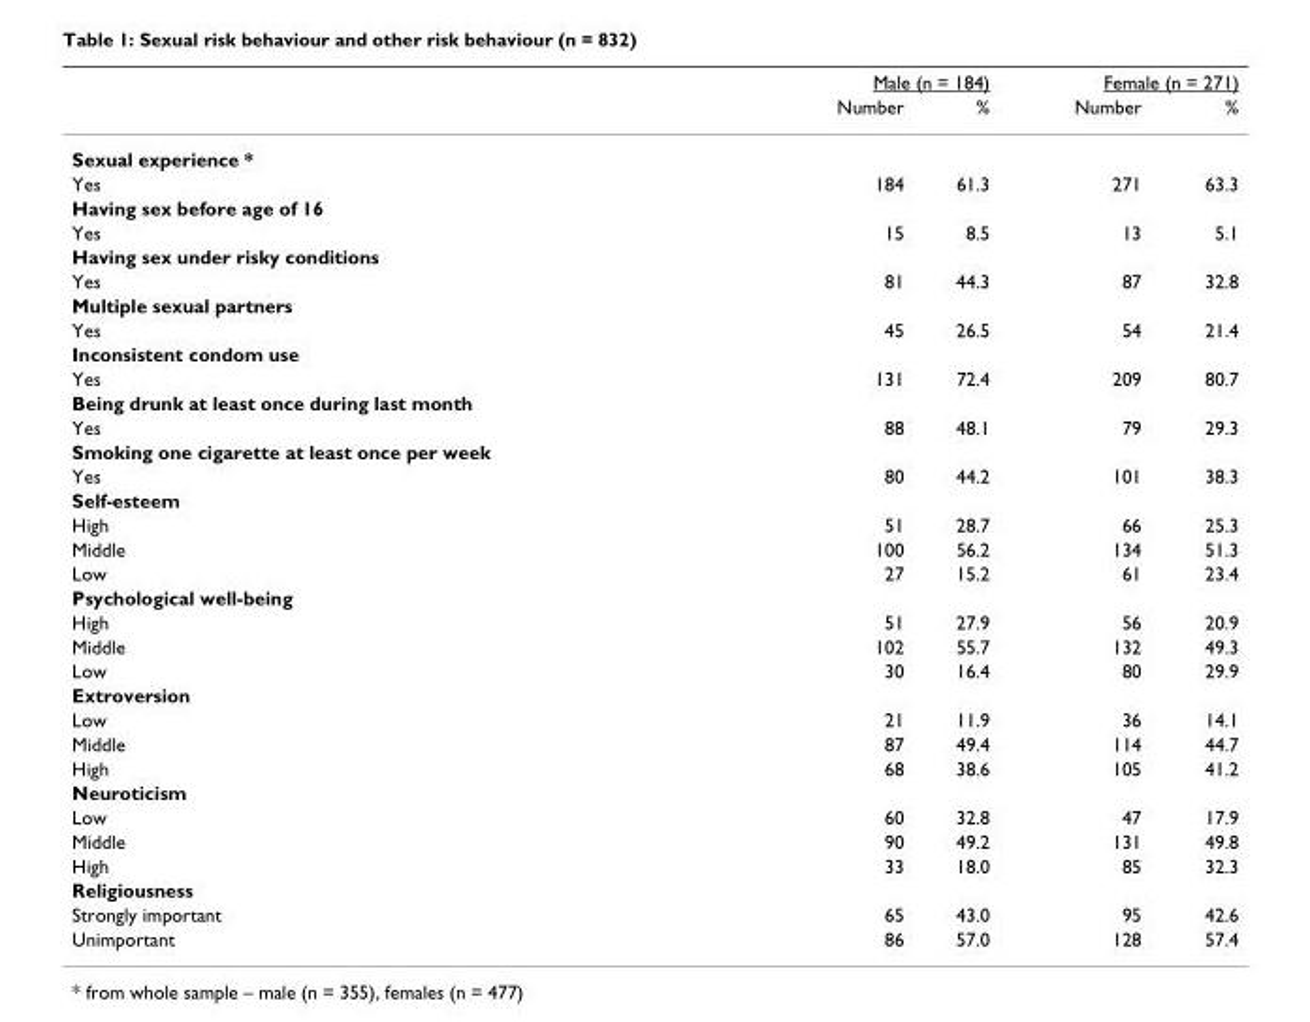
<table><thead><tr><td rowspan="2"></td><td colspan="2">Male (n = 184)</td><td colspan="2">Female (n = 271)</td></tr><tr><td>Number</td><td>%</td><td>Number</td><td>%</td></tr></thead><tbody><tr><td colspan="5">Sexual experience *</td></tr><tr><td>Yes</td><td>184</td><td>61.3</td><td>271</td><td>63.3</td></tr><tr><td colspan="5">Having sex before age of 16</td></tr><tr><td>Yes</td><td>15</td><td>8.5</td><td>13</td><td>5.1</td></tr><tr><td colspan="5">Having sex under risky conditions</td></tr><tr><td>Yes</td><td>81</td><td>44.3</td><td>87</td><td>32.8</td></tr><tr><td colspan="5">Multiple sexual partners</td></tr><tr><td>Yes</td><td>45</td><td>26.5</td><td>54</td><td>21.4</td></tr><tr><td colspan="5">Inconsistent condom use</td></tr><tr><td>Yes</td><td>131</td><td>72.4</td><td>209</td><td>80.7</td></tr><tr><td colspan="5">Being drunk at least once during last month</td></tr><tr><td>Yes</td><td>88</td><td>48.1</td><td>79</td><td>29.3</td></tr><tr><td colspan="5">Smoking one cigarette at least once per week</td></tr><tr><td>Yes</td><td>80</td><td>44.2</td><td>101</td><td>38.3</td></tr><tr><td colspan="5">Self-esteem</td></tr><tr><td>High</td><td>51</td><td>28.7</td><td>66</td><td>25.3</td></tr><tr><td>Middle</td><td>100</td><td>56.2</td><td>134</td><td>51.3</td></tr><tr><td>Low</td><td>27</td><td>15.2</td><td>61</td><td>23.4</td></tr><tr><td colspan="5">Psychological well-being</td></tr><tr><td>High</td><td>51</td><td>27.9</td><td>56</td><td>20.9</td></tr><tr><td>Middle</td><td>102</td><td>55.7</td><td>132</td><td>49.3</td></tr><tr><td>Low</td><td>30</td><td>16.4</td><td>80</td><td>29.9</td></tr><tr><td colspan="5">Extroversion</td></tr><tr><td>Low</td><td>21</td><td>11.9</td><td>36</td><td>14.1</td></tr><tr><td>Middle</td><td>87</td><td>49.4</td><td>114</td><td>44.7</td></tr><tr><td>High</td><td>68</td><td>38.6</td><td>105</td><td>41.2</td></tr><tr><td colspan="5">Neuroticism</td></tr><tr><td>Low</td><td>60</td><td>32.8</td><td>47</td><td>17.9</td></tr><tr><td>Middle</td><td>90</td><td>49.2</td><td>131</td><td>49.8</td></tr><tr><td>High</td><td>33</td><td>18.0</td><td>85</td><td>32.3</td></tr><tr><td colspan="5">Religiousness</td></tr><tr><td>Strongly important</td><td>65</td><td>43.0</td><td>95</td><td>42.6</td></tr><tr><td>Unimportant</td><td>86</td><td>57.0</td><td>128</td><td>57.4</td></tr></tbody></table>